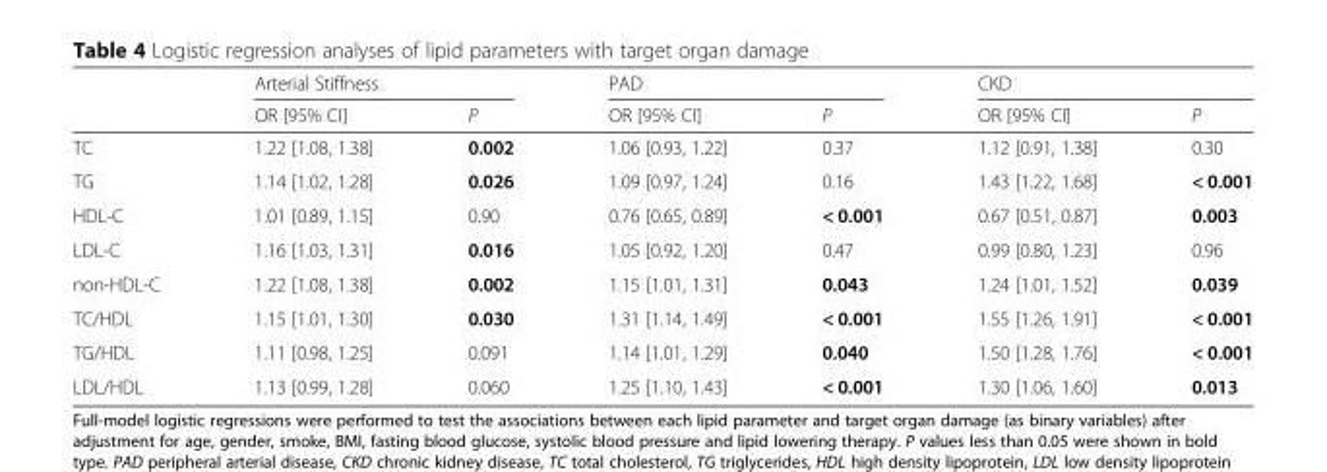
<table><thead><tr><td rowspan="2"></td><td colspan="2">Arterial Stiffness</td><td colspan="2">PAD</td><td colspan="2">CKD</td></tr><tr><td>OR [95% CI]</td><td>P</td><td>OR [95% CI]</td><td>P</td><td>OR [95% CI]</td><td>P</td></tr></thead><tbody><tr><td>TC</td><td>1.22 [1.08, 1.38]</td><td>0.002</td><td>1.06 [0.93, 1.22]</td><td>0.37</td><td>1.12 [0.91, 1.38]</td><td>0.30</td></tr><tr><td>TG</td><td>1.14 [1.02, 1.28]</td><td>0.026</td><td>1.09 [0.97, 1.24]</td><td>0.16</td><td>1.43 [1.22, 1.68]</td><td>&lt; 0.001</td></tr><tr><td>HDL-C</td><td>1.01 [0.89, 1.15]</td><td>0.90</td><td>0.76 [0.65, 0.89]</td><td>&lt; 0.001</td><td>0.67 [0.51, 0.87]</td><td>0.003</td></tr><tr><td>LDL-C</td><td>1.16 [1.03, 1.31]</td><td>0.016</td><td>1.05 [0.92, 1.20]</td><td>0.47</td><td>0.99 [0.80, 1.23]</td><td>0.96</td></tr><tr><td>non-HDL-C</td><td>1.22 [1.08, 1.38]</td><td>0.002</td><td>1.15 [1.01, 1.31]</td><td>0.043</td><td>1.24 [1.01, 1.52]</td><td>0.039</td></tr><tr><td>TC/HDL</td><td>1.15 [1.01, 1.30]</td><td>0.030</td><td>1.31 [1.14, 1.49]</td><td>&lt; 0.001</td><td>1.55 [1.26, 1.91]</td><td>&lt; 0.001</td></tr><tr><td>TG/HDL</td><td>1.11 [0.98, 1.25]</td><td>0.091</td><td>1.14 [1.01, 1.29]</td><td>0.040</td><td>1.50 [1.28, 1.76]</td><td>&lt; 0.001</td></tr><tr><td>LDL/HDL</td><td>1.13 [0.99, 1.28]</td><td>0.060</td><td>1.25 [1.10, 1.43]</td><td>&lt; 0.001</td><td>1.30 [1.06, 1.60]</td><td>0.013</td></tr></tbody></table>